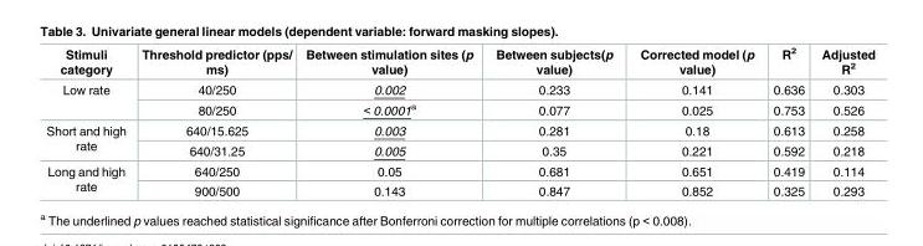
<table><thead><tr><td>Stimuli category</td><td>Threshold predictor (pps/ ms)</td><td>Between stimulation sites (p value)</td><td>Between subjects(p value)</td><td>Corrected model (p value)</td><td>R<sup>2</sup></td><td>Adjusted R<sup>2</sup></td></tr></thead><tbody><tr><td rowspan="2">Low rate</td><td>40/250</td><td>0.002</td><td>0.233</td><td>0.141</td><td>0.636</td><td>0.303</td></tr><tr><td>80/250</td><td>&lt; 0.0001<sup>a</sup></td><td>0.077</td><td>0.025</td><td>0.753</td><td>0.526</td></tr><tr><td rowspan="2">Short and high rate</td><td>640/15.625</td><td>0.003</td><td>0.281</td><td>0.18</td><td>0.613</td><td>0.258</td></tr><tr><td>640/31.25</td><td>0.005</td><td>0.35</td><td>0.221</td><td>0.592</td><td>0.218</td></tr><tr><td rowspan="2">Long and high rate</td><td>640/250</td><td>0.05</td><td>0.681</td><td>0.651</td><td>0.419</td><td>0.114</td></tr><tr><td>900/500</td><td>0.143</td><td>0.847</td><td>0.852</td><td>0.325</td><td>0.293</td></tr></tbody></table>